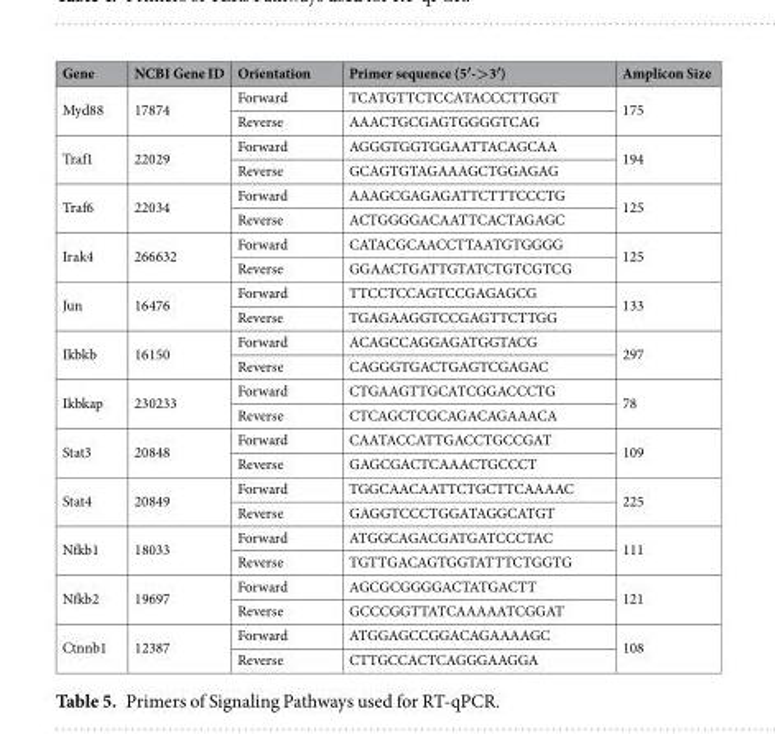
<table><thead><tr><td>Gene</td><td>NCBI Gene ID</td><td>Orientation</td><td>Primer sequence (5′-&gt;3′)</td><td>Amplicon Size</td></tr></thead><tbody><tr><td rowspan="2">Myd88</td><td rowspan="2">17874</td><td>Forward</td><td>TCATGTTCTCCATACCCTTGGT</td><td rowspan="2">175</td></tr><tr><td>Reverse</td><td>AAACTGCGAGTGGGGTCAG</td></tr><tr><td rowspan="2">Traf1</td><td rowspan="2">22029</td><td>Forward</td><td>AGGGTGGTGGAATTACAGCAA</td><td rowspan="2">194</td></tr><tr><td>Reverse</td><td>GCAGTGTAGAAAGCTGGAGAG</td></tr><tr><td rowspan="2">Traf6</td><td rowspan="2">22034</td><td>Forward</td><td>AAAGCGAGAGATTCTTTCCCTG</td><td rowspan="2">125</td></tr><tr><td>Reverse</td><td>ACTGGGGACAATTCACTAGAGC</td></tr><tr><td rowspan="2">Irak4</td><td rowspan="2">266632</td><td>Forward</td><td>CATACGCAACCTTAATGTGGGG</td><td rowspan="2">125</td></tr><tr><td>Reverse</td><td>GGAACTGATTGTATCTGTCGTCG</td></tr><tr><td rowspan="2">Jun</td><td rowspan="2">16476</td><td>Forward</td><td>TTCCTCCAGTCCGAGAGCG</td><td rowspan="2">133</td></tr><tr><td>Reverse</td><td>TGAGAAGGTCCGAGTTCTTGG</td></tr><tr><td rowspan="2">Ikbkb</td><td rowspan="2">16150</td><td>Forward</td><td>ACAGCCAGGAGATGGTACG</td><td rowspan="2">297</td></tr><tr><td>Reverse</td><td>CAGGGTGACTGAGTCGAGAC</td></tr><tr><td rowspan="2">Ikbkap</td><td rowspan="2">230233</td><td>Forward</td><td>CTGAAGTTGCATCGGACCCTG</td><td rowspan="2">78</td></tr><tr><td>Reverse</td><td>CTCAGCTCGCAGACAGAAACA</td></tr><tr><td rowspan="2">Stat3</td><td rowspan="2">20848</td><td>Forward</td><td>CAATACCATTGACCTGCCGAT</td><td rowspan="2">109</td></tr><tr><td>Reverse</td><td>GAGCGACTCAAACTGCCCT</td></tr><tr><td rowspan="2">Stat4</td><td rowspan="2">20849</td><td>Forward</td><td>TGGCAACAATTCTGCTTCAAAAC</td><td rowspan="2">225</td></tr><tr><td>Reverse</td><td>GAGGTCCCTGGATAGGCATGT</td></tr><tr><td rowspan="2">Nfkb1</td><td rowspan="2">18033</td><td>Forward</td><td>ATGGCAGACGATGATCCCTAC</td><td rowspan="2">111</td></tr><tr><td>Reverse</td><td>TGTTGACAGTGGTATTTCTGGTG</td></tr><tr><td rowspan="2">Nfkb2</td><td rowspan="2">19697</td><td>Forward</td><td>AGCGCGGGGACTATGACTT</td><td rowspan="2">121</td></tr><tr><td>Reverse</td><td>GCCCGGTTATCAAAAATCGGAT</td></tr><tr><td rowspan="2">Ctnnb1</td><td rowspan="2">12387</td><td>Forward</td><td>ATGGAGCCGGACAGAAAAGC</td><td rowspan="2">108</td></tr><tr><td>Reverse</td><td>CTTGCCACTCAGGGAAGGA</td></tr></tbody></table>